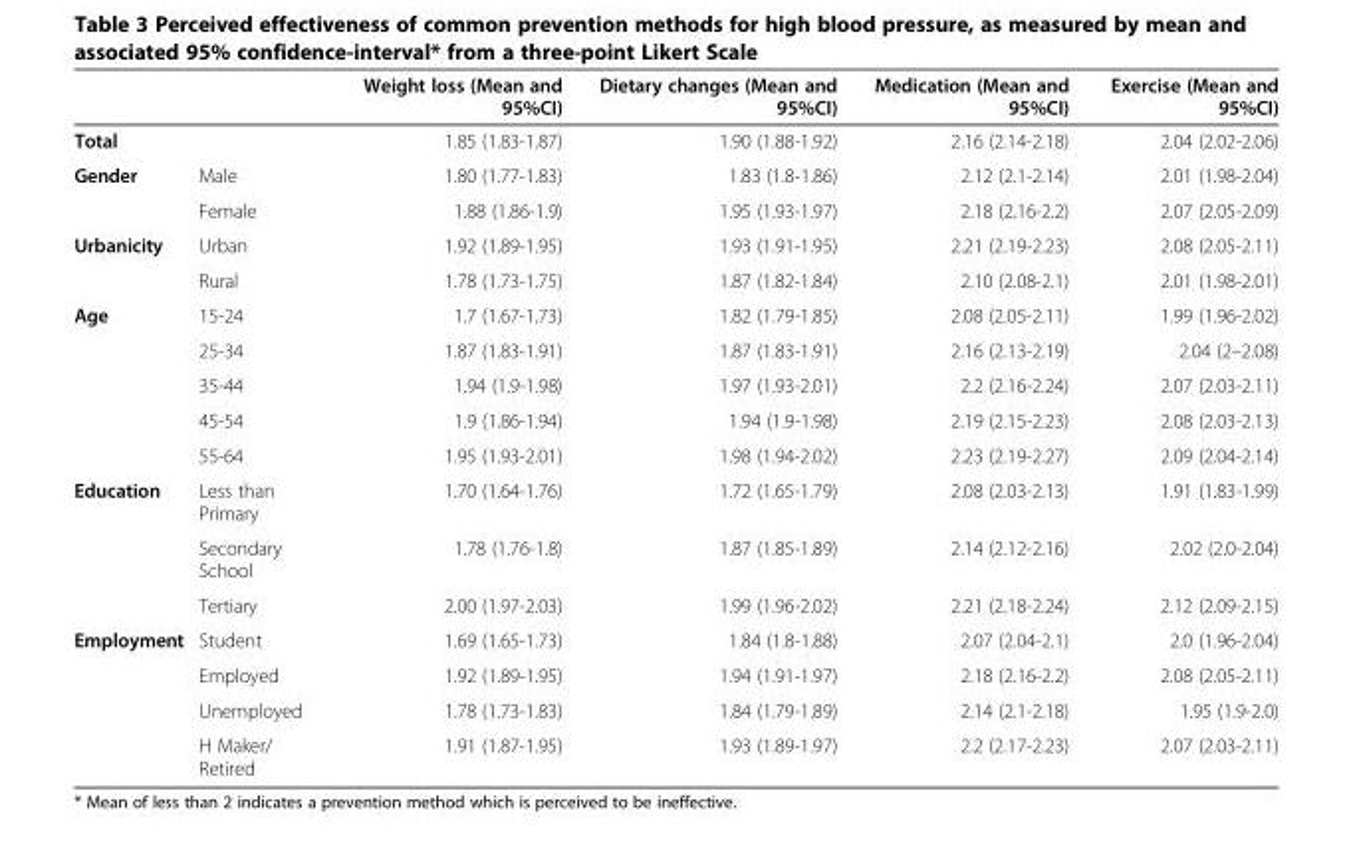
<table><thead><tr><td></td><td></td><td>Weight loss (Mean and 95%CI)</td><td>Dietary changes (Mean and 95%CI)</td><td>Medication (Mean and 95%CI)</td><td>Exercise (Mean and 95%CI)</td></tr></thead><tbody><tr><td>Total</td><td></td><td>1.85 (1.83-1.87)</td><td>1.90 (1.88-1.92)</td><td>2.16 (2.14-2.18)</td><td>2.04 (2.02-2.06)</td></tr><tr><td rowspan="2">Gender</td><td>Male</td><td>1.80 (1.77-1.83)</td><td>1.83 (1.8-1.86)</td><td>2.12 (2.1-2.14)</td><td>2.01 (1.98-2.04)</td></tr><tr><td>Female</td><td>1.88 (1.86-1.9)</td><td>1.95 (1.93-1.97)</td><td>2.18 (2.16-2.2)</td><td>2.07 (2.05-2.09)</td></tr><tr><td rowspan="2">Urbanicity</td><td>Urban</td><td>1.92 (1.89-1.95)</td><td>1.93 (1.91-1.95)</td><td>2.21 (2.19-2.23)</td><td>2.08 (2.05-2.11)</td></tr><tr><td>Rural</td><td>1.78 (1.73-1.75)</td><td>1.87 (1.82-1.84)</td><td>2.10 (2.08-2.1)</td><td>2.01 (1.98-2.01)</td></tr><tr><td rowspan="5">Age</td><td>15-24</td><td>1.7 (1.67-1.73)</td><td>1.82 (1.79-1.85)</td><td>2.08 (2.05-2.11)</td><td>1.99 (1.96-2.02)</td></tr><tr><td>25-34</td><td>1.87 (1.83-1.91)</td><td>1.87 (1.83-1.91)</td><td>2.16 (2.13-2.19)</td><td>2.04 (2–2.08)</td></tr><tr><td>35-44</td><td>1.94 (1.9-1.98)</td><td>1.97 (1.93-2.01)</td><td>2.2 (2.16-2.24)</td><td>2.07 (2.03-2.11)</td></tr><tr><td>45-54</td><td>1.9 (1.86-1.94)</td><td>1.94 (1.9-1.98)</td><td>2.19 (2.15-2.23)</td><td>2.08 (2.03-2.13)</td></tr><tr><td>55-64</td><td>1.95 (1.93-2.01)</td><td>1.98 (1.94-2.02)</td><td>2.23 (2.19-2.27)</td><td>2.09 (2.04-2.14)</td></tr><tr><td rowspan="3">Education</td><td>Less than Primary</td><td>1.70 (1.64-1.76)</td><td>1.72 (1.65-1.79)</td><td>2.08 (2.03-2.13)</td><td>1.91 (1.83-1.99)</td></tr><tr><td>Secondary School</td><td>1.78 (1.76-1.8)</td><td>1.87 (1.85-1.89)</td><td>2.14 (2.12-2.16)</td><td>2.02 (2.0-2.04)</td></tr><tr><td>Tertiary</td><td>2.00 (1.97-2.03)</td><td>1.99 (1.96-2.02)</td><td>2.21 (2.18-2.24)</td><td>2.12 (2.09-2.15)</td></tr><tr><td rowspan="4">Employment</td><td>Student</td><td>1.69 (1.65-1.73)</td><td>1.84 (1.8-1.88)</td><td>2.07 (2.04-2.1)</td><td>2.0 (1.96-2.04)</td></tr><tr><td>Employed</td><td>1.92 (1.89-1.95)</td><td>1.94 (1.91-1.97)</td><td>2.18 (2.16-2.2)</td><td>2.08 (2.05-2.11)</td></tr><tr><td>Unemployed</td><td>1.78 (1.73-1.83)</td><td>1.84 (1.79-1.89)</td><td>2.14 (2.1-2.18)</td><td>1.95 (1.9-2.0)</td></tr><tr><td>H Maker/ Retired</td><td>1.91 (1.87-1.95)</td><td>1.93 (1.89-1.97)</td><td>2.2 (2.17-2.23)</td><td>2.07 (2.03-2.11)</td></tr></tbody></table>